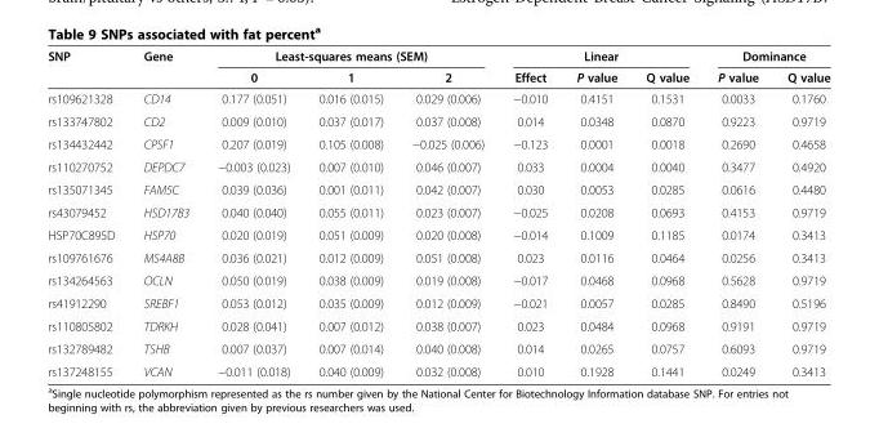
<table><thead><tr><td rowspan="2">SNP</td><td rowspan="2">Gene</td><td colspan="3">Least-squares means (SEM)</td><td colspan="3">Linear</td><td colspan="2">Dominance</td></tr><tr><td>0</td><td>1</td><td>2</td><td>Effect</td><td>P value</td><td>Q value</td><td>P value</td><td>Q value</td></tr></thead><tbody><tr><td>rs109621328</td><td>CD14</td><td>0.177 (0.051)</td><td>0.016 (0.015)</td><td>0.029 (0.006)</td><td>−0.010</td><td>0.4151</td><td>0.1531</td><td>0.0033</td><td>0.1760</td></tr><tr><td>rs133747802</td><td>CD2</td><td>0.009 (0.010)</td><td>0.037 (0.017)</td><td>0.037 (0.008)</td><td>0.014</td><td>0.0348</td><td>0.0870</td><td>0.9223</td><td>0.9719</td></tr><tr><td>rs134432442</td><td>CPSF1</td><td>0.207 (0.019)</td><td>0.105 (0.008)</td><td>−0.025 (0.006)</td><td>−0.123</td><td>0.0001</td><td>0.0018</td><td>0.2690</td><td>0.4658</td></tr><tr><td>rs110270752</td><td>DEPDC7</td><td>−0.003 (0.023)</td><td>0.007 (0.010)</td><td>0.046 (0.007)</td><td>0.033</td><td>0.0004</td><td>0.0040</td><td>0.3477</td><td>0.4920</td></tr><tr><td>rs135071345</td><td>FAM5C</td><td>0.039 (0.036)</td><td>0.001 (0.011)</td><td>0.042 (0.007)</td><td>0.030</td><td>0.0053</td><td>0.0285</td><td>0.0616</td><td>0.4480</td></tr><tr><td>rs43079452</td><td>HSD17B3</td><td>0.040 (0.040)</td><td>0.055 (0.011)</td><td>0.023 (0.007)</td><td>−0.025</td><td>0.0208</td><td>0.0693</td><td>0.4153</td><td>0.9719</td></tr><tr><td>HSP70C895D</td><td>HSP70</td><td>0.020 (0.019)</td><td>0.051 (0.009)</td><td>0.020 (0.008)</td><td>−0.014</td><td>0.1009</td><td>0.1185</td><td>0.0174</td><td>0.3413</td></tr><tr><td>rs109761676</td><td>MS4A8B</td><td>0.036 (0.021)</td><td>0.012 (0.009)</td><td>0.051 (0.008)</td><td>0.023</td><td>0.0116</td><td>0.0464</td><td>0.0256</td><td>0.3413</td></tr><tr><td>rs134264563</td><td>OCLN</td><td>0.050 (0.019)</td><td>0.038 (0.009)</td><td>0.019 (0.008)</td><td>−0.017</td><td>0.0468</td><td>0.0968</td><td>0.5628</td><td>0.9719</td></tr><tr><td>rs41912290</td><td>SREBF1</td><td>0.053 (0.012)</td><td>0.035 (0.009)</td><td>0.012 (0.009)</td><td>−0.021</td><td>0.0057</td><td>0.0285</td><td>0.8490</td><td>0.5196</td></tr><tr><td>rs110805802</td><td>TDRKH</td><td>0.028 (0.041)</td><td>0.007 (0.012)</td><td>0.038 (0.007)</td><td>0.023</td><td>0.0484</td><td>0.0968</td><td>0.9191</td><td>0.9719</td></tr><tr><td>rs132789482</td><td>TSHB</td><td>0.007 (0.037)</td><td>0.007 (0.014)</td><td>0.040 (0.008)</td><td>0.014</td><td>0.0265</td><td>0.0757</td><td>0.6093</td><td>0.9719</td></tr><tr><td>rs137248155</td><td>VCAN</td><td>−0.011 (0.018)</td><td>0.040 (0.009)</td><td>0.032 (0.008)</td><td>0.010</td><td>0.1928</td><td>0.1441</td><td>0.0249</td><td>0.3413</td></tr></tbody></table>